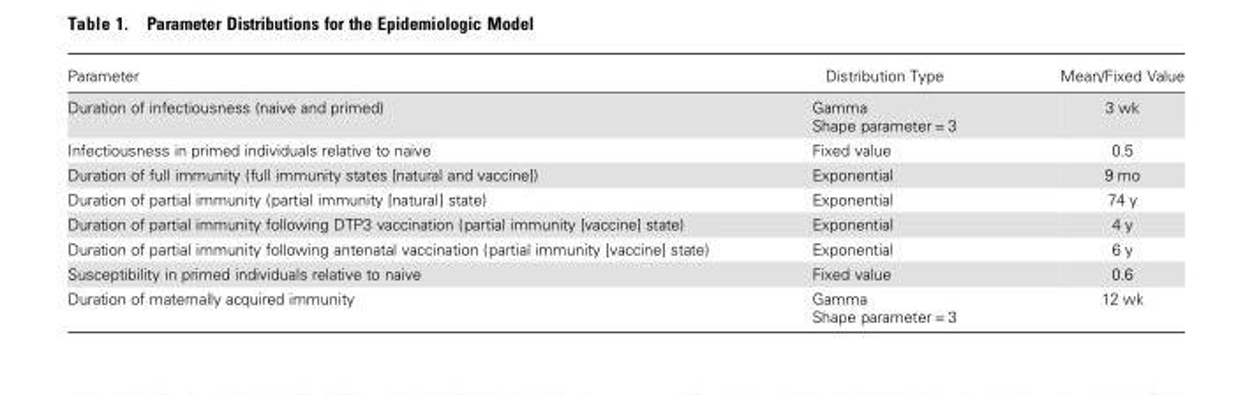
<table><thead><tr><td>Parameter</td><td>Distribution Type</td><td>Mean/Fixed Value</td></tr></thead><tbody><tr><td>Duration of infectiousness (naive and primed)</td><td>Gamma Shape parameter = 3</td><td>3 wk</td></tr><tr><td>Infectiousness in primed individuals relative to naive</td><td>Fixed value</td><td>0.5</td></tr><tr><td>Duration of full immunity (full immunity states [natural and vaccine])</td><td>Exponential</td><td>9 mo</td></tr><tr><td>Duration of partial immunity (partial immunity [natural] state)</td><td>Exponential</td><td>74 y</td></tr><tr><td>Duration of partial immunity following DTP3 vaccination (partial immunity [vaccine] state)</td><td>Exponential</td><td>4 y</td></tr><tr><td>Duration of partial immunity following antenatal vaccination (partial immunity [vaccine] state)</td><td>Exponential</td><td>6 y</td></tr><tr><td>Susceptibility in primed individuals relative to naive</td><td>Fixed value</td><td>0.6</td></tr><tr><td>Duration of maternally acquired immunity</td><td>Gamma Shape parameter = 3</td><td>12 wk</td></tr></tbody></table>